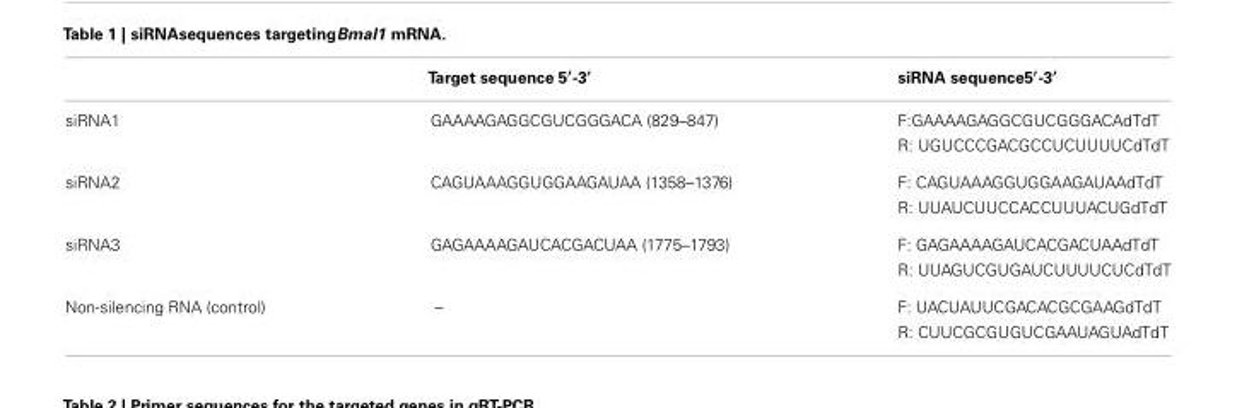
<table><thead><tr><td></td><td>Target sequence 5′-3′</td><td>siRNA sequence5′-3′</td></tr></thead><tbody><tr><td rowspan="2">siRNA1</td><td>GAAAAGAGGCGUCGGGACA (829–847)</td><td>F:GAAAAGAGGCGUCGGGACAdTdT</td></tr><tr><td></td><td>R: UGUCCCGACGCCUCUUUUCdTdT</td></tr><tr><td rowspan="2">siRNA2</td><td>CAGUAAAGGUGGAAGAUAA (1358–1376)</td><td>F: CAGUAAAGGUGGAAGAUAAdTdT</td></tr><tr><td></td><td>R: UUAUCUUCCACCUUUACUGdTdT</td></tr><tr><td rowspan="2">siRNA3</td><td>GAGAAAAGAUCACGACUAA (1775–1793)</td><td>F: GAGAAAAGAUCACGACUAAdTdT</td></tr><tr><td></td><td>R: UUAGUCGUGAUCUUUUCUCdTdT</td></tr><tr><td rowspan="2">Non-silencing RNA (control)</td><td>–</td><td>F: UACUAUUCGACACGCGAAGdTdT</td></tr><tr><td></td><td>R: CUUCGCGUGUCGAAUAGUAdTdT</td></tr></tbody></table>